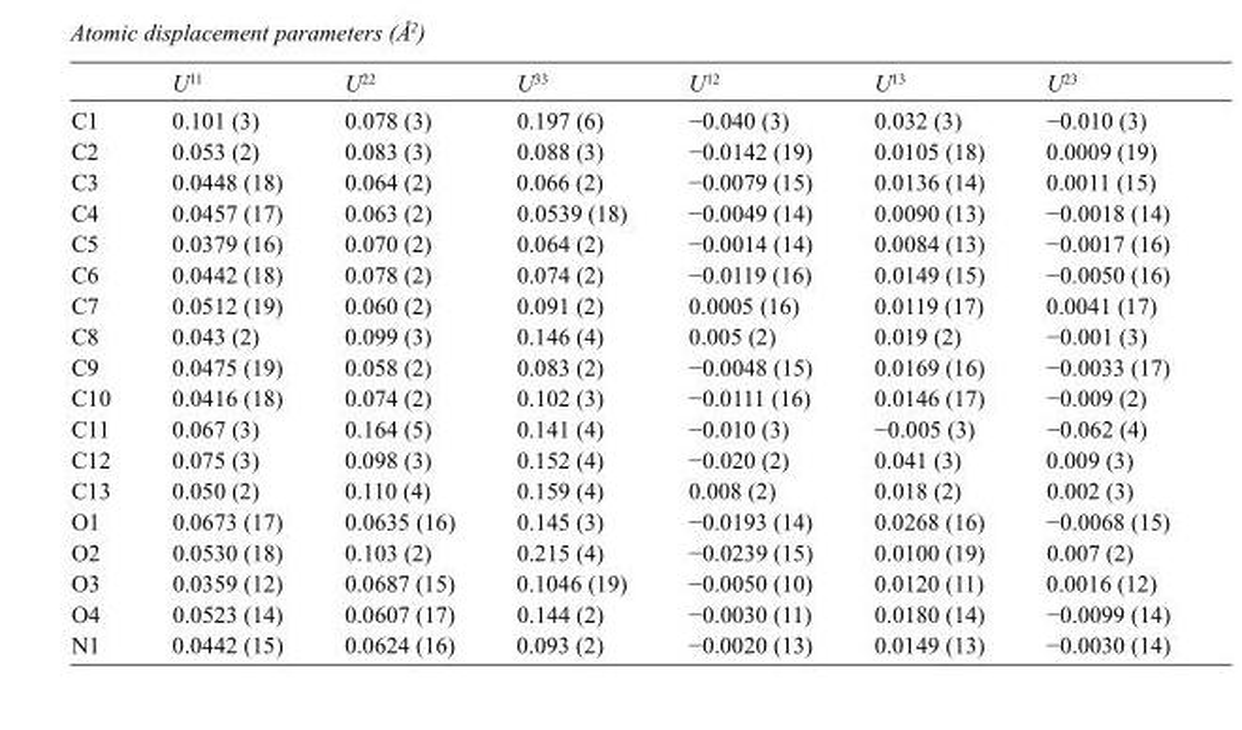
<table><thead><tr><td></td><td>U<sup>11</sup></td><td>U<sup>22</sup></td><td>U<sup>33</sup></td><td>U<sup>12</sup></td><td>U<sup>13</sup></td><td>U<sup>23</sup></td></tr></thead><tbody><tr><td>C1</td><td>0.101 (3)</td><td>0.078 (3)</td><td>0.197 (6)</td><td>−0.040 (3)</td><td>0.032 (3)</td><td>−0.010 (3)</td></tr><tr><td>C2</td><td>0.053 (2)</td><td>0.083 (3)</td><td>0.088 (3)</td><td>−0.0142 (19)</td><td>0.0105 (18)</td><td>0.0009 (19)</td></tr><tr><td>C3</td><td>0.0448 (18)</td><td>0.064 (2)</td><td>0.066 (2)</td><td>−0.0079 (15)</td><td>0.0136 (14)</td><td>0.0011 (15)</td></tr><tr><td>C4</td><td>0.0457 (17)</td><td>0.063 (2)</td><td>0.0539 (18)</td><td>−0.0049 (14)</td><td>0.0090 (13)</td><td>−0.0018 (14)</td></tr><tr><td>C5</td><td>0.0379 (16)</td><td>0.070 (2)</td><td>0.064 (2)</td><td>−0.0014 (14)</td><td>0.0084 (13)</td><td>−0.0017 (16)</td></tr><tr><td>C6</td><td>0.0442 (18)</td><td>0.078 (2)</td><td>0.074 (2)</td><td>−0.0119 (16)</td><td>0.0149 (15)</td><td>−0.0050 (16)</td></tr><tr><td>C7</td><td>0.0512 (19)</td><td>0.060 (2)</td><td>0.091 (2)</td><td>0.0005 (16)</td><td>0.0119 (17)</td><td>0.0041 (17)</td></tr><tr><td>C8</td><td>0.043 (2)</td><td>0.099 (3)</td><td>0.146 (4)</td><td>0.005 (2)</td><td>0.019 (2)</td><td>−0.001 (3)</td></tr><tr><td>C9</td><td>0.0475 (19)</td><td>0.058 (2)</td><td>0.083 (2)</td><td>−0.0048 (15)</td><td>0.0169 (16)</td><td>−0.0033 (17)</td></tr><tr><td>C10</td><td>0.0416 (18)</td><td>0.074 (2)</td><td>0.102 (3)</td><td>−0.0111 (16)</td><td>0.0146 (17)</td><td>−0.009 (2)</td></tr><tr><td>C11</td><td>0.067 (3)</td><td>0.164 (5)</td><td>0.141 (4)</td><td>−0.010 (3)</td><td>−0.005 (3)</td><td>−0.062 (4)</td></tr><tr><td>C12</td><td>0.075 (3)</td><td>0.098 (3)</td><td>0.152 (4)</td><td>−0.020 (2)</td><td>0.041 (3)</td><td>0.009 (3)</td></tr><tr><td>C13</td><td>0.050 (2)</td><td>0.110 (4)</td><td>0.159 (4)</td><td>0.008 (2)</td><td>0.018 (2)</td><td>0.002 (3)</td></tr><tr><td>O1</td><td>0.0673 (17)</td><td>0.0635 (16)</td><td>0.145 (3)</td><td>−0.0193 (14)</td><td>0.0268 (16)</td><td>−0.0068 (15)</td></tr><tr><td>O2</td><td>0.0530 (18)</td><td>0.103 (2)</td><td>0.215 (4)</td><td>−0.0239 (15)</td><td>0.0100 (19)</td><td>0.007 (2)</td></tr><tr><td>O3</td><td>0.0359 (12)</td><td>0.0687 (15)</td><td>0.1046 (19)</td><td>−0.0050 (10)</td><td>0.0120 (11)</td><td>0.0016 (12)</td></tr><tr><td>O4</td><td>0.0523 (14)</td><td>0.0607 (17)</td><td>0.144 (2)</td><td>−0.0030 (11)</td><td>0.0180 (14)</td><td>−0.0099 (14)</td></tr><tr><td>N1</td><td>0.0442 (15)</td><td>0.0624 (16)</td><td>0.093 (2)</td><td>−0.0020 (13)</td><td>0.0149 (13)</td><td>−0.0030 (14)</td></tr></tbody></table>